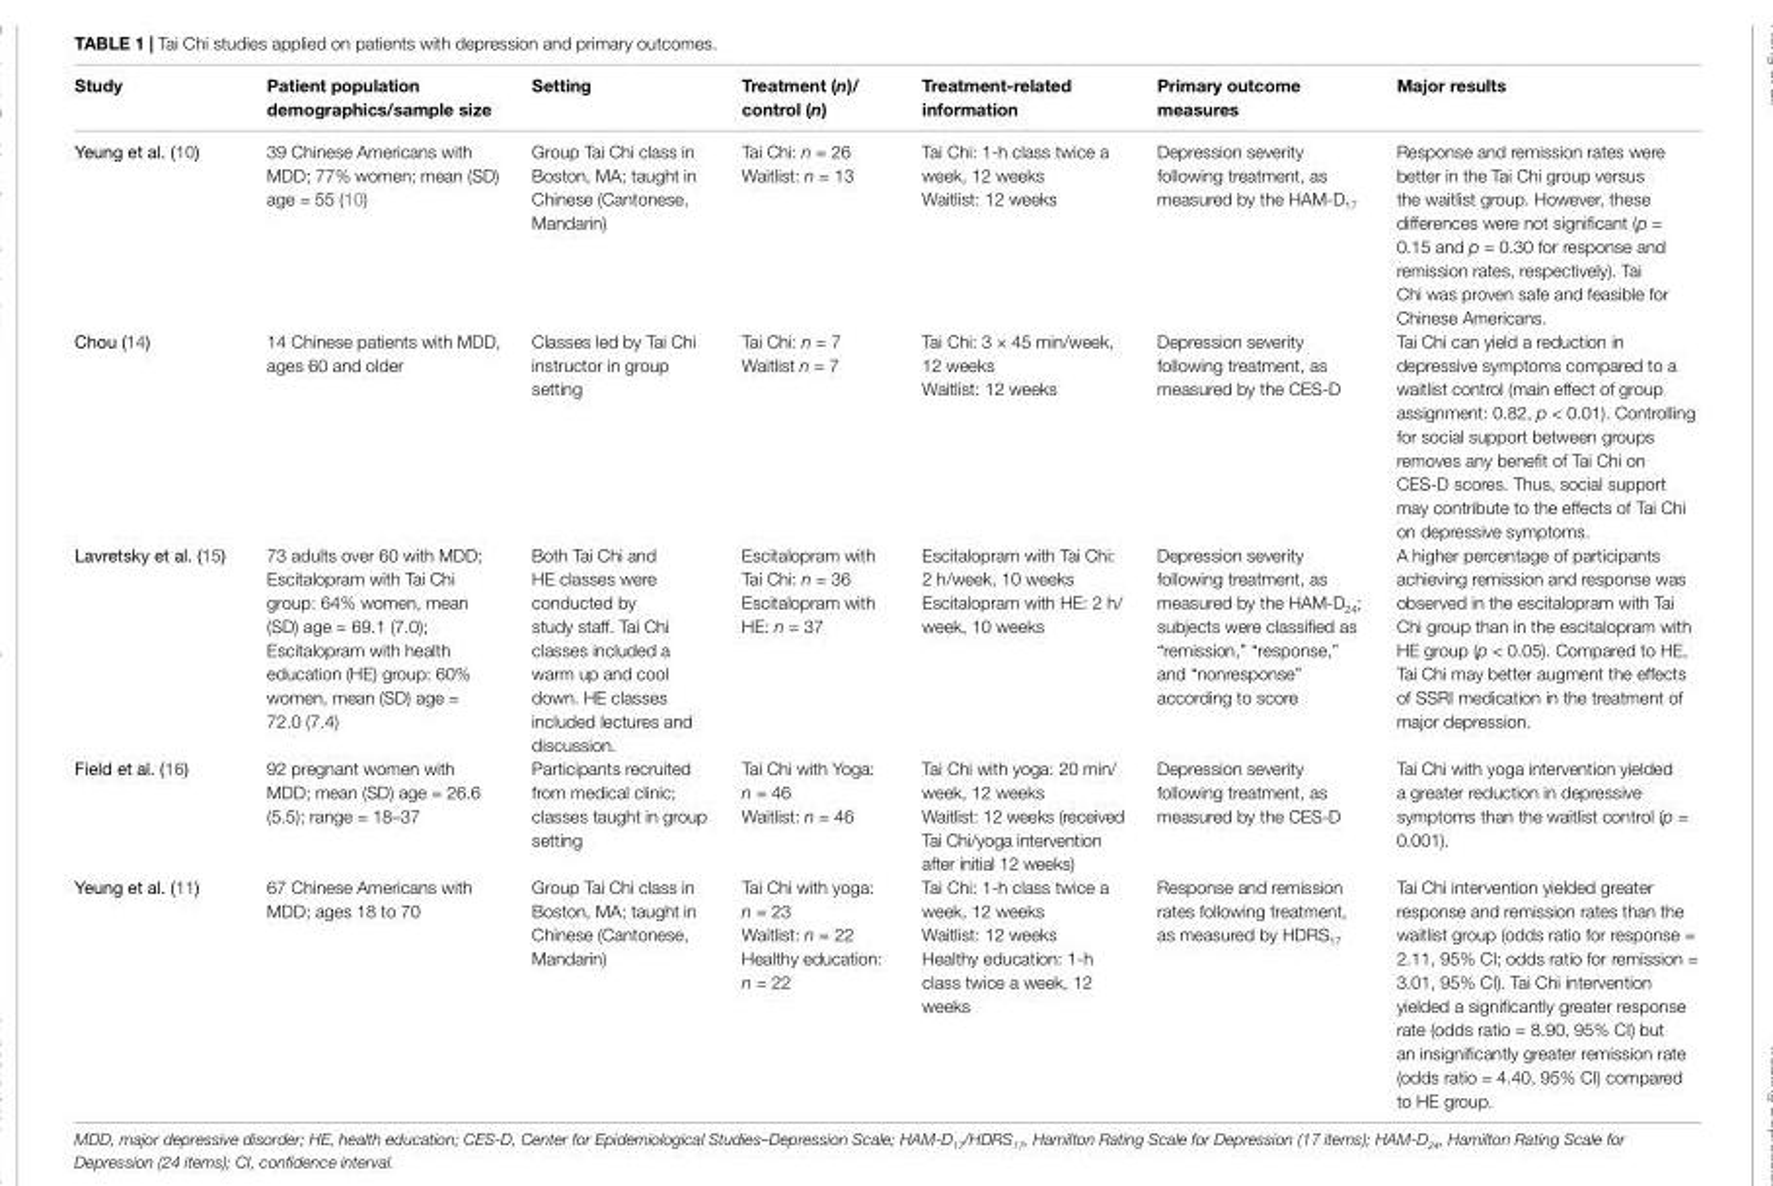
<table><thead><tr><td>Study</td><td>Patient population demographics/sample size</td><td>Setting</td><td>Treatment (n)/ control (n)</td><td>Treatment-related information</td><td>Primary outcome measures</td><td>Major results</td></tr></thead><tbody><tr><td>Yeung et al. (10)</td><td>39 Chinese Americans with MDD; 77% women; mean (SD) age = 55 (10)</td><td>Group Tai Chi class in Boston, MA; taught in Chinese (Cantonese, Mandarin)</td><td>Tai Chi: n = 26 Waitlist: n = 13</td><td>Tai Chi: 1-h class twice a week, 12 weeks Waitlist: 12 weeks</td><td>Depression severity following treatment, as measured by the HAM-D<sub>17</sub></td><td>Response and remission rates were better in the Tai Chi group versus the waitlist group. However, these differences were not significant (p = 0.15 and p = 0.30 for response and remission rates, respectively). Tai Chi was proven safe and feasible for Chinese Americans.</td></tr><tr><td>Chou (14)</td><td>14 Chinese patients with MDD, ages 60 and older</td><td>Classes led by Tai Chi instructor in group setting</td><td>Tai Chi: n = 7 Waitlist n = 7</td><td>Tai Chi: 3 × 45 min/week, 12 weeks Waitlist: 12 weeks</td><td>Depression severity following treatment, as measured by the CES-D</td><td>Tai Chi can yield a reduction in depressive symptoms compared to a waitlist control (main effect of group assignment: 0.82, p &lt; 0.01). Controlling for social support between groups removes any benefit of Tai Chi on CES-D scores. Thus, social support may contribute to the effects of Tai Chi on depressive symptoms.</td></tr><tr><td>Lavretsky et al. (15)</td><td>73 adults over 60 with MDD; Escitalopram with Tai Chi group: 64% women, mean (SD) age = 69.1 (7.0); Escitalopram with health education (HE) group: 60% women, mean (SD) age = 72.0 (7.4)</td><td>Both Tai Chi and HE classes were conducted by study staff. Tai Chi classes included a warm up and cool down. HE classes included lectures and discussion.</td><td>Escitalopram with Tai Chi: n = 36 Escitalopram with HE: n = 37</td><td>Escitalopram with Tai Chi: 2 h/week, 10 weeks Escitalopram with HE: 2 h/ week, 10 weeks</td><td>Depression severity following treatment, as measured by the HAM-D<sub>24</sub>; subjects were classified as “remission,” “response,” and “nonresponse” according to score</td><td>A higher percentage of participants achieving remission and response was observed in the escitalopram with Tai Chi group than in the escitalopram with HE group (p &lt; 0.05). Compared to HE, Tai Chi may better augment the effects of SSRI medication in the treatment of major depression.</td></tr><tr><td>Field et al. (16)</td><td>92 pregnant women with MDD; mean (SD) age = 26.6 (5.5); range = 18–37</td><td>Participants recruited from medical clinic; classes taught in group setting</td><td>Tai Chi with Yoga: n = 46 Waitlist: n = 46</td><td>Tai Chi with yoga: 20 min/ week, 12 weeks Waitlist: 12 weeks (received Tai Chi/yoga intervention after initial 12 weeks)</td><td>Depression severity following treatment, as measured by the CES-D</td><td>Tai Chi with yoga intervention yielded a greater reduction in depressive symptoms than the waitlist control (p = 0.001).</td></tr><tr><td>Yeung et al. (11)</td><td>67 Chinese Americans with MDD; ages 18 to 70</td><td>Group Tai Chi class in Boston, MA; taught in Chinese (Cantonese, Mandarin)</td><td>Tai Chi with yoga: n = 23 Waitlist: n = 22 Healthy education: n = 22</td><td>Tai Chi: 1-h class twice a week, 12 weeks Waitlist: 12 weeks Healthy education: 1-h class twice a week, 12 weeks</td><td>Response and remission rates following treatment, as measured by HDRS<sub>17</sub></td><td>Tai Chi intervention yielded greater response and remission rates than the waitlist group (odds ratio for response = 2.11, 95% CI; odds ratio for remission = 3.01, 95% CI). Tai Chi intervention yielded a significantly greater response rate (odds ratio = 8.90, 95% CI) but an insignificantly greater remission rate (odds ratio = 4.40, 95% CI) compared to HE group.</td></tr></tbody></table>